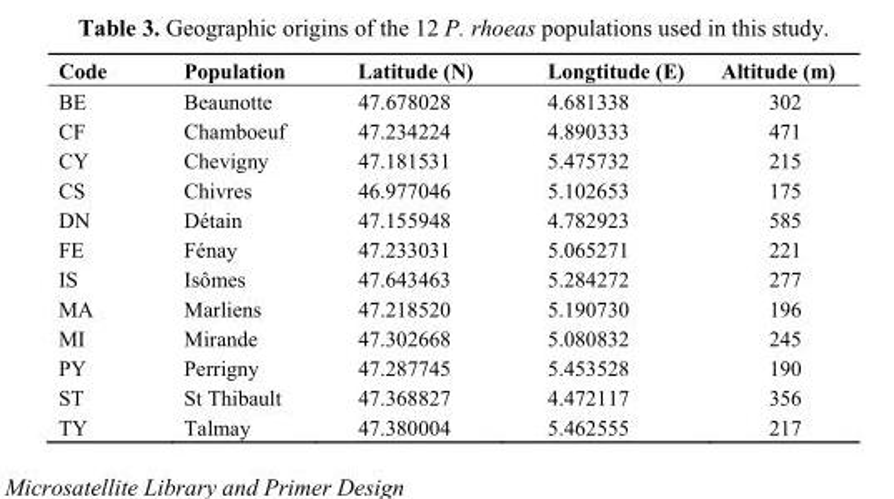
<table><thead><tr><td>Code</td><td>Population</td><td>Latitude (N)</td><td>Longtitude (E)</td><td>Altitude (m)</td></tr></thead><tbody><tr><td>BE</td><td>Beaunotte</td><td>47.678028</td><td>4.681338</td><td>302</td></tr><tr><td>CF</td><td>Chamboeuf</td><td>47.234224</td><td>4.890333</td><td>471</td></tr><tr><td>CY</td><td>Chevigny</td><td>47.181531</td><td>5.475732</td><td>215</td></tr><tr><td>CS</td><td>Chivres</td><td>46.977046</td><td>5.102653</td><td>175</td></tr><tr><td>DN</td><td>Détain</td><td>47.155948</td><td>4.782923</td><td>585</td></tr><tr><td>FE</td><td>Fénay</td><td>47.233031</td><td>5.065271</td><td>221</td></tr><tr><td>IS</td><td>Isômes</td><td>47.643463</td><td>5.284272</td><td>277</td></tr><tr><td>MA</td><td>Marliens</td><td>47.218520</td><td>5.190730</td><td>196</td></tr><tr><td>MI</td><td>Mirande</td><td>47.302668</td><td>5.080832</td><td>245</td></tr><tr><td>PY</td><td>Perrigny</td><td>47.287745</td><td>5.453528</td><td>190</td></tr><tr><td>ST</td><td>St Thibault</td><td>47.368827</td><td>4.472117</td><td>356</td></tr><tr><td>TY</td><td>Talmay</td><td>47.380004</td><td>5.462555</td><td>217</td></tr></tbody></table>